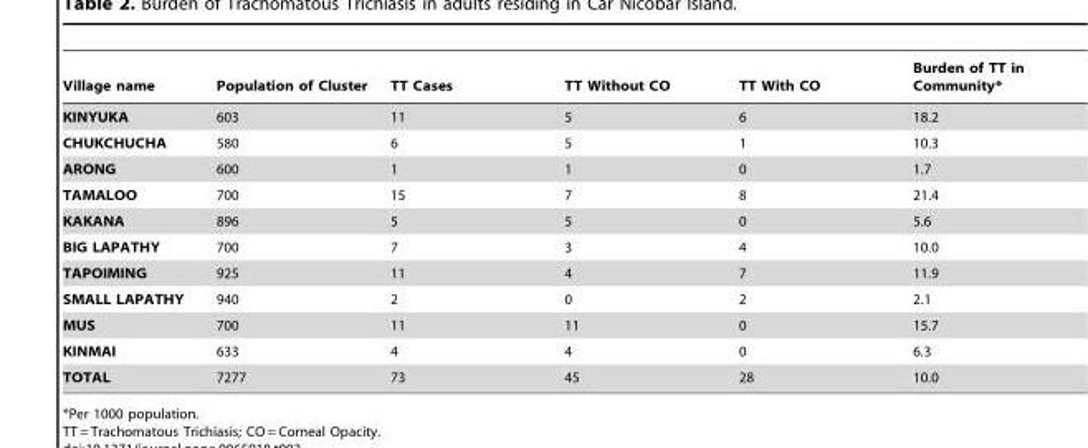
<table><thead><tr><td>Village name</td><td>Population of Cluster</td><td>TT Cases</td><td>TT Without CO</td><td>TT With CO</td><td>Burden of TT in Community*</td></tr></thead><tbody><tr><td>KINYUKA</td><td>603</td><td>11</td><td>5</td><td>6</td><td>18.2</td></tr><tr><td>CHUKCHUCHA</td><td>580</td><td>6</td><td>5</td><td>1</td><td>10.3</td></tr><tr><td>ARONG</td><td>600</td><td>1</td><td>1</td><td>0</td><td>1.7</td></tr><tr><td>TAMALOO</td><td>700</td><td>15</td><td>7</td><td>8</td><td>21.4</td></tr><tr><td>KAKANA</td><td>896</td><td>5</td><td>5</td><td>0</td><td>5.6</td></tr><tr><td>BIG LAPATHY</td><td>700</td><td>7</td><td>3</td><td>4</td><td>10.0</td></tr><tr><td>TAPOIMING</td><td>925</td><td>11</td><td>4</td><td>7</td><td>11.9</td></tr><tr><td>SMALL LAPATHY</td><td>940</td><td>2</td><td>0</td><td>2</td><td>2.1</td></tr><tr><td>MUS</td><td>700</td><td>11</td><td>11</td><td>0</td><td>15.7</td></tr><tr><td>KINMAI</td><td>633</td><td>4</td><td>4</td><td>0</td><td>6.3</td></tr><tr><td>TOTAL</td><td>7277</td><td>73</td><td>45</td><td>28</td><td>10.0</td></tr></tbody></table>